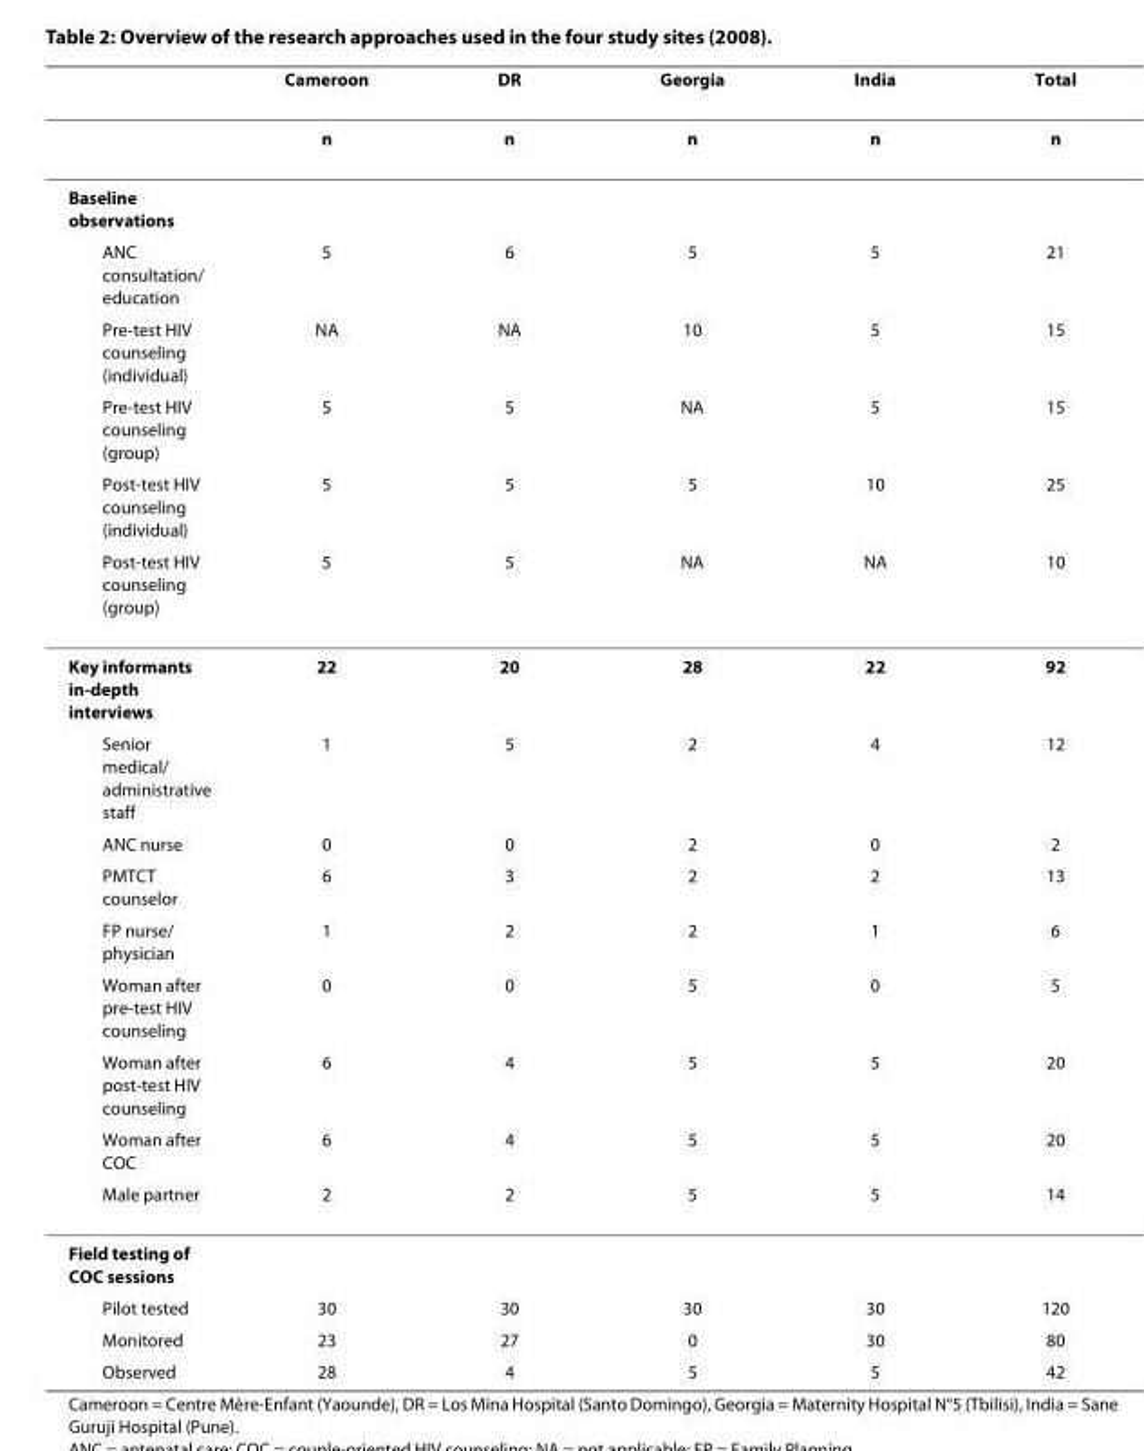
<table><thead><tr><td></td><td>Cameroon</td><td>DR</td><td>Georgia</td><td>India</td><td>Total</td></tr></thead><tbody><tr><td></td><td>n</td><td>n</td><td>n</td><td>n</td><td>n</td></tr><tr><td colspan="6">Baseline observations</td></tr><tr><td>ANC consultation/ education</td><td>5</td><td>6</td><td>5</td><td>5</td><td>21</td></tr><tr><td>Pre-test HIV counseling (individual)</td><td>NA</td><td>NA</td><td>10</td><td>5</td><td>15</td></tr><tr><td>Pre-test HIV counseling (group)</td><td>5</td><td>5</td><td>NA</td><td>5</td><td>15</td></tr><tr><td>Post-test HIV counseling (individual)</td><td>5</td><td>5</td><td>5</td><td>10</td><td>25</td></tr><tr><td>Post-test HIV counseling (group)</td><td>5</td><td>5</td><td>NA</td><td>NA</td><td>10</td></tr><tr><td>Key informants in-depth interviews</td><td>22</td><td>20</td><td>28</td><td>22</td><td>92</td></tr><tr><td>Senior medical/ administrative staff</td><td>1</td><td>5</td><td>2</td><td>4</td><td>12</td></tr><tr><td>ANC nurse</td><td>0</td><td>0</td><td>2</td><td>0</td><td>2</td></tr><tr><td>PMTCT counselor</td><td>6</td><td>3</td><td>2</td><td>2</td><td>13</td></tr><tr><td>FP nurse/ physician</td><td>1</td><td>2</td><td>2</td><td>1</td><td>6</td></tr><tr><td>Woman after pre-test HIV counseling</td><td>0</td><td>0</td><td>5</td><td>0</td><td>5</td></tr><tr><td>Woman after post-test HIV counseling</td><td>6</td><td>4</td><td>5</td><td>5</td><td>20</td></tr><tr><td>Woman after COC</td><td>6</td><td>4</td><td>5</td><td>5</td><td>20</td></tr><tr><td>Male partner</td><td>2</td><td>2</td><td>5</td><td>5</td><td>14</td></tr><tr><td colspan="6">Field testing of COC sessions</td></tr><tr><td>Pilot tested</td><td>30</td><td>30</td><td>30</td><td>30</td><td>120</td></tr><tr><td>Monitored</td><td>23</td><td>27</td><td>0</td><td>30</td><td>80</td></tr><tr><td>Observed</td><td>28</td><td>4</td><td>5</td><td>5</td><td>42</td></tr></tbody></table>